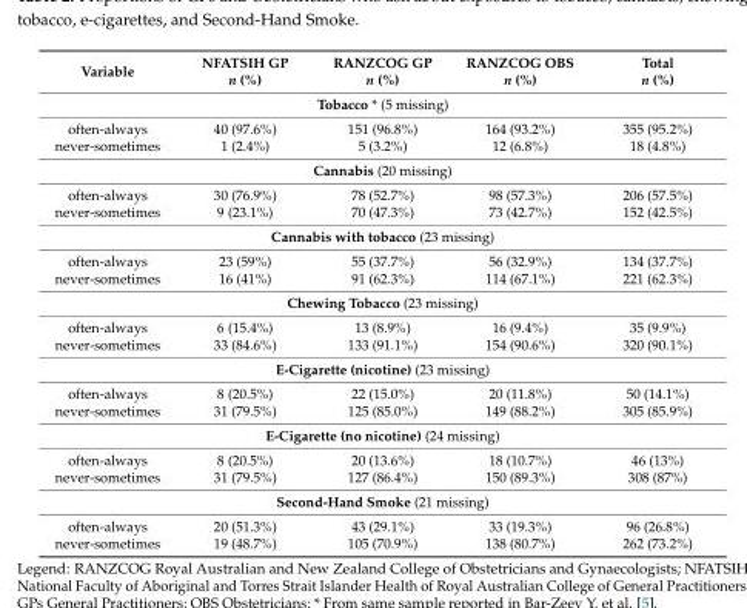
<table><thead><tr><td>Variable</td><td>NFATSIH GP n (%)</td><td>RANZCOG GP n (%)</td><td>RANZCOG OBS n (%)</td><td>Total n (%)</td></tr></thead><tbody><tr><td colspan="5">Tobacco * (5 missing)</td></tr><tr><td>often-always</td><td>40 (97.6%)</td><td>151 (96.8%)</td><td>164 (93.2%)</td><td>355 (95.2%)</td></tr><tr><td>never-sometimes</td><td>1 (2.4%)</td><td>5 (3.2%)</td><td>12 (6.8%)</td><td>18 (4.8%)</td></tr><tr><td colspan="5">Cannabis (20 missing)</td></tr><tr><td>often-always</td><td>30 (76.9%)</td><td>78 (52.7%)</td><td>98 (57.3%)</td><td>206 (57.5%)</td></tr><tr><td>never-sometimes</td><td>9 (23.1%)</td><td>70 (47.3%)</td><td>73 (42.7%)</td><td>152 (42.5%)</td></tr><tr><td colspan="5">Cannabis with tobacco (23 missing)</td></tr><tr><td>often-always</td><td>23 (59%)</td><td>55 (37.7%)</td><td>56 (32.9%)</td><td>134 (37.7%)</td></tr><tr><td>never-sometimes</td><td>16 (41%)</td><td>91 (62.3%)</td><td>114 (67.1%)</td><td>221 (62.3%)</td></tr><tr><td colspan="5">Chewing Tobacco (23 missing)</td></tr><tr><td>often-always</td><td>6 (15.4%)</td><td>13 (8.9%)</td><td>16 (9.4%)</td><td>35 (9.9%)</td></tr><tr><td>never-sometimes</td><td>33 (84.6%)</td><td>133 (91.1%)</td><td>154 (90.6%)</td><td>320 (90.1%)</td></tr><tr><td colspan="5">E-Cigarette (nicotine) (23 missing)</td></tr><tr><td>often-always</td><td>8 (20.5%)</td><td>22 (15.0%)</td><td>20 (11.8%)</td><td>50 (14.1%)</td></tr><tr><td>never-sometimes</td><td>31 (79.5%)</td><td>125 (85.0%)</td><td>149 (88.2%)</td><td>305 (85.9%)</td></tr><tr><td colspan="5">E-Cigarette (no nicotine) (24 missing)</td></tr><tr><td>often-always</td><td>8 (20.5%)</td><td>20 (13.6%)</td><td>18 (10.7%)</td><td>46 (13%)</td></tr><tr><td>never-sometimes</td><td>31 (79.5%)</td><td>127 (86.4%)</td><td>150 (89.3%)</td><td>308 (87%)</td></tr><tr><td colspan="5">Second-Hand Smoke (21 missing)</td></tr><tr><td>often-always</td><td>20 (51.3%)</td><td>43 (29.1%)</td><td>33 (19.3%)</td><td>96 (26.8%)</td></tr><tr><td>never-sometimes</td><td>19 (48.7%)</td><td>105 (70.9%)</td><td>138 (80.7%)</td><td>262 (73.2%)</td></tr></tbody></table>